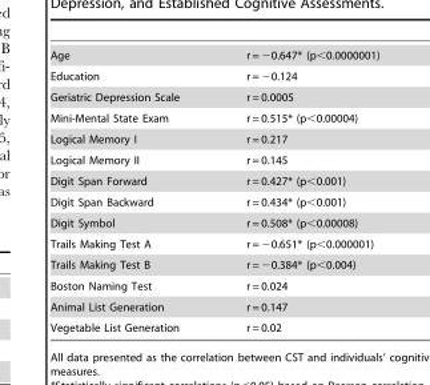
<table><tbody><tr><td>Age</td><td>r = −0.647* (p&lt;0.0000001)</td></tr><tr><td>Education</td><td>r = −0.124</td></tr><tr><td>Geriatric Depression Scale</td><td>r = 0.0005</td></tr><tr><td>Mini-Mental State Exam</td><td>r = 0.515* (p&lt;0.00004)</td></tr><tr><td>Logical Memory I</td><td>r = 0.217</td></tr><tr><td>Logical Memory II</td><td>r = 0.145</td></tr><tr><td>Digit Span Forward</td><td>r = 0.427* (p&lt;0.001)</td></tr><tr><td>Digit Span Backward</td><td>r = 0.434* (p&lt;0.001)</td></tr><tr><td>Digit Symbol</td><td>r = 0.508* (p&lt;0.00008)</td></tr><tr><td>Trails Making Test A</td><td>r = −0.651* (p&lt;0.000001)</td></tr><tr><td>Trails Making Test B</td><td>r = −0.384* (p&lt;0.004)</td></tr><tr><td>Boston Naming Test</td><td>r = 0.024</td></tr><tr><td>Animal List Generation</td><td>r = 0.147</td></tr><tr><td>Vegetable List Generation</td><td>r = 0.02</td></tr></tbody></table>